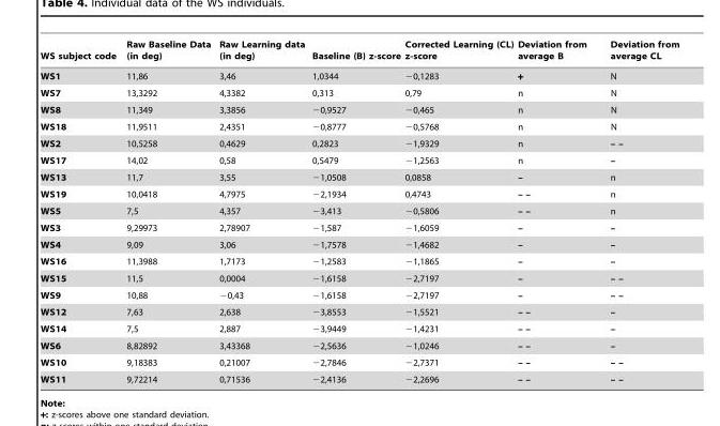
<table><thead><tr><td>WS subject code</td><td>Raw Baseline Data (in deg)</td><td>Raw Learning data (in deg)</td><td>Baseline (B) z-score</td><td>Corrected Learning (CL) z-score</td><td>Deviation from average B</td><td>Deviation from average CL</td></tr></thead><tbody><tr><td>WS1</td><td>11,86</td><td>3,46</td><td>1,0344</td><td>−0,1283</td><td>+</td><td>N</td></tr><tr><td>WS7</td><td>13,3292</td><td>4,3382</td><td>0,313</td><td>0,79</td><td>n</td><td>N</td></tr><tr><td>WS8</td><td>11,349</td><td>3,3856</td><td>−0,9527</td><td>−0,465</td><td>n</td><td>N</td></tr><tr><td>WS18</td><td>11,9511</td><td>2,4351</td><td>−0,8777</td><td>−0,5768</td><td>n</td><td>N</td></tr><tr><td>WS2</td><td>10,5258</td><td>0,4629</td><td>0,2823</td><td>−1,9329</td><td>n</td><td>– –</td></tr><tr><td>WS17</td><td>14,02</td><td>0,58</td><td>0,5479</td><td>−1,2563</td><td>n</td><td>–</td></tr><tr><td>WS13</td><td>11,7</td><td>3,55</td><td>−1,0508</td><td>0,0858</td><td>–</td><td>n</td></tr><tr><td>WS19</td><td>10,0418</td><td>4,7975</td><td>−2,1934</td><td>0,4743</td><td>– –</td><td>n</td></tr><tr><td>WS5</td><td>7,5</td><td>4,357</td><td>−3,413</td><td>−0,5806</td><td>– –</td><td>n</td></tr><tr><td>WS3</td><td>9,29973</td><td>2,78907</td><td>−1,587</td><td>−1,6059</td><td>–</td><td>–</td></tr><tr><td>WS4</td><td>9,09</td><td>3,06</td><td>−1,7578</td><td>−1,4682</td><td>–</td><td>–</td></tr><tr><td>WS16</td><td>11,3988</td><td>1,7173</td><td>−1,2583</td><td>−1,1865</td><td>–</td><td>–</td></tr><tr><td>WS15</td><td>11,5</td><td>0,0004</td><td>−1,6158</td><td>−2,7197</td><td>–</td><td>– –</td></tr><tr><td>WS9</td><td>10,88</td><td>−0,43</td><td>−1,6158</td><td>−2,7197</td><td>–</td><td>– –</td></tr><tr><td>WS12</td><td>7,63</td><td>2,638</td><td>−3,8553</td><td>−1,5521</td><td>– –</td><td>–</td></tr><tr><td>WS14</td><td>7,5</td><td>2,887</td><td>−3,9449</td><td>−1,4231</td><td>– –</td><td>–</td></tr><tr><td>WS6</td><td>8,82892</td><td>3,43368</td><td>−2,5636</td><td>−1,0246</td><td>– –</td><td>–</td></tr><tr><td>WS10</td><td>9,18383</td><td>0,21007</td><td>−2,7846</td><td>−2,7371</td><td>– –</td><td>– –</td></tr><tr><td>WS11</td><td>9,72214</td><td>0,71536</td><td>−2,4136</td><td>−2,2696</td><td>– –</td><td>– –</td></tr></tbody></table>